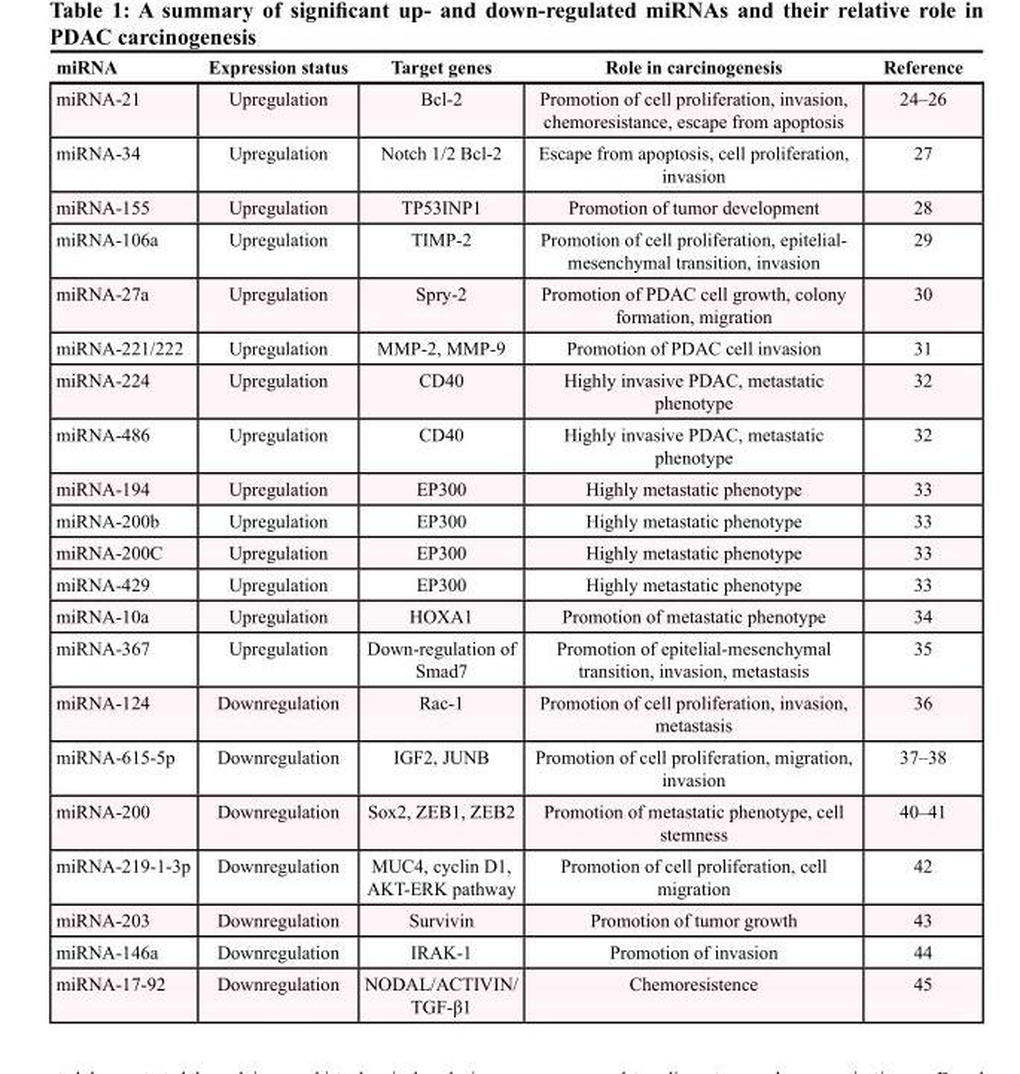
<table><thead><tr><td>miRNA</td><td>Expression status</td><td>Target genes</td><td>Role in carcinogenesis</td><td>Reference</td></tr></thead><tbody><tr><td>miRNA-21</td><td>Upregulation</td><td>Bcl-2</td><td>Promotion of cell proliferation, invasion, chemoresistance, escape from apoptosis</td><td>24–26</td></tr><tr><td>miRNA-34</td><td>Upregulation</td><td>Notch 1/2 Bcl-2</td><td>Escape from apoptosis, cell proliferation, invasion</td><td>27</td></tr><tr><td>miRNA-155</td><td>Upregulation</td><td>TP53INP1</td><td>Promotion of tumor development</td><td>28</td></tr><tr><td>miRNA-106a</td><td>Upregulation</td><td>TIMP-2</td><td>Promotion of cell proliferation, epitelial- mesenchymal transition, invasion</td><td>29</td></tr><tr><td>miRNA-27a</td><td>Upregulation</td><td>Spry-2</td><td>Promotion of PDAC cell growth, colony formation, migration</td><td>30</td></tr><tr><td>miRNA-221/222</td><td>Upregulation</td><td>MMP-2, MMP-9</td><td>Promotion of PDAC cell invasion</td><td>31</td></tr><tr><td>miRNA-224</td><td>Upregulation</td><td>CD40</td><td>Highly invasive PDAC, metastatic phenotype</td><td>32</td></tr><tr><td>miRNA-486</td><td>Upregulation</td><td>CD40</td><td>Highly invasive PDAC, metastatic phenotype</td><td>32</td></tr><tr><td>miRNA-194</td><td>Upregulation</td><td>EP300</td><td>Highly metastatic phenotype</td><td>33</td></tr><tr><td>miRNA-200b</td><td>Upregulation</td><td>EP300</td><td>Highly metastatic phenotype</td><td>33</td></tr><tr><td>miRNA-200C</td><td>Upregulation</td><td>EP300</td><td>Highly metastatic phenotype</td><td>33</td></tr><tr><td>miRNA-429</td><td>Upregulation</td><td>EP300</td><td>Highly metastatic phenotype</td><td>33</td></tr><tr><td>miRNA-10a</td><td>Upregulation</td><td>HOXA1</td><td>Promotion of metastatic phenotype</td><td>34</td></tr><tr><td>miRNA-367</td><td>Upregulation</td><td>Down-regulation of Smad7</td><td>Promotion of epitelial-mesenchymal transition, invasion, metastasis</td><td>35</td></tr><tr><td>miRNA-124</td><td>Downregulation</td><td>Rac-1</td><td>Promotion of cell proliferation, invasion, metastasis</td><td>36</td></tr><tr><td>miRNA-615-5p</td><td>Downregulation</td><td>IGF2, JUNB</td><td>Promotion of cell proliferation, migration, invasion</td><td>37–38</td></tr><tr><td>miRNA-200</td><td>Downregulation</td><td>Sox2, ZEB1, ZEB2</td><td>Promotion of metastatic phenotype, cell stemness</td><td>40–41</td></tr><tr><td>miRNA-219-1-3p</td><td>Downregulation</td><td>MUC4, cyclin D1, AKT-ERK pathway</td><td>Promotion of cell proliferation, cell migration</td><td>42</td></tr><tr><td>miRNA-203</td><td>Downregulation</td><td>Survivin</td><td>Promotion of tumor growth</td><td>43</td></tr><tr><td>miRNA-146a</td><td>Downregulation</td><td>IRAK-1</td><td>Promotion of invasion</td><td>44</td></tr><tr><td>miRNA-17-92</td><td>Downregulation</td><td>NODAL/ACTIVIN/ TGF-β1</td><td>Chemoresistence</td><td>45</td></tr></tbody></table>